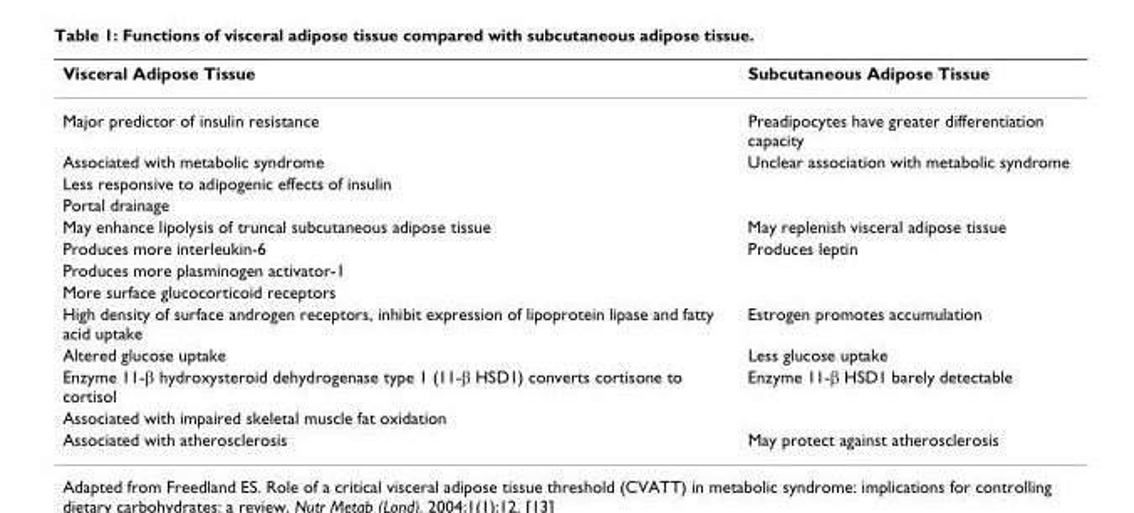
<table><thead><tr><td>Visceral Adipose Tissue</td><td>Subcutaneous Adipose Tissue</td></tr></thead><tbody><tr><td>Major predictor of insulin resistance</td><td>Preadipocytes have greater differentiation capacity</td></tr><tr><td>Associated with metabolic syndrome</td><td>Unclear association with metabolic syndrome</td></tr><tr><td colspan="2">Less responsive to adipogenic effects of insulin</td></tr><tr><td colspan="2">Portal drainage</td></tr><tr><td>May enhance lipolysis of truncal subcutaneous adipose tissue</td><td>May replenish visceral adipose tissue</td></tr><tr><td>Produces more interleukin-6</td><td>Produces leptin</td></tr><tr><td colspan="2">Produces more plasminogen activator-1</td></tr><tr><td colspan="2">More surface glucocorticoid receptors</td></tr><tr><td>High density of surface androgen receptors, inhibit expression of lipoprotein lipase and fatty acid uptake</td><td>Estrogen promotes accumulation</td></tr><tr><td>Altered glucose uptake</td><td>Less glucose uptake</td></tr><tr><td>Enzyme 11-β hydroxysteroid dehydrogenase type 1 (11-β HSD1) converts cortisone to cortisol</td><td>Enzyme 11-β HSD1 barely detectable</td></tr><tr><td colspan="2">Associated with impaired skeletal muscle fat oxidation</td></tr><tr><td>Associated with atherosclerosis</td><td>May protect against atherosclerosis</td></tr></tbody></table>